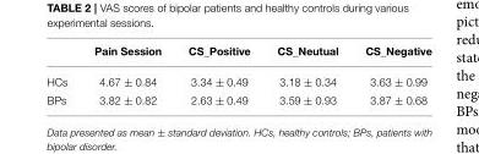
<table><thead><tr><td></td><td>Pain Session</td><td>CS_Positive</td><td>CS_Neutual</td><td>CS_Negative</td></tr></thead><tbody><tr><td>HCs</td><td>4.67 ± 0.84</td><td>3.34 ± 0.49</td><td>3.18 ± 0.34</td><td>3.63 ± 0.99</td></tr><tr><td>BPs</td><td>3.82 ± 0.82</td><td>2.63 ± 0.49</td><td>3.59 ± 0.93</td><td>3.87 ± 0.68</td></tr></tbody></table>